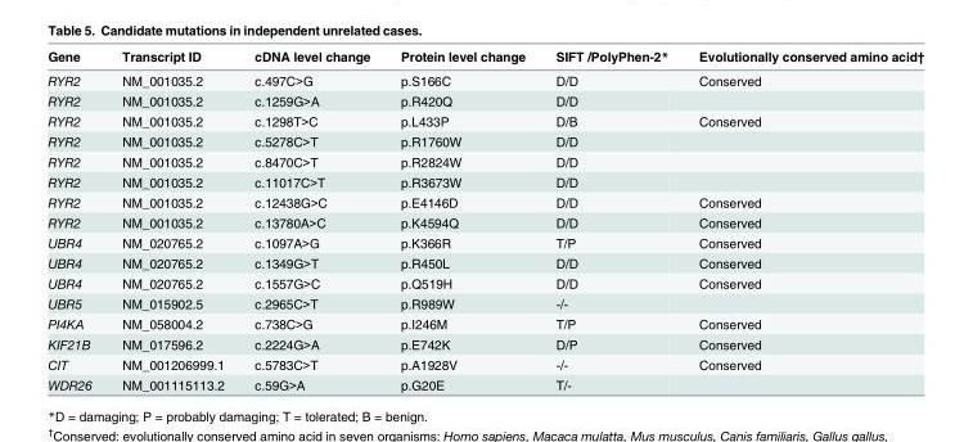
<table><thead><tr><td>Gene</td><td>Transcript ID</td><td>cDNA level change</td><td>Protein level change</td><td>SIFT /PolyPhen-2*</td><td>Evolutionally conserved amino acid†</td></tr></thead><tbody><tr><td>RYR2</td><td>NM_001035.2</td><td>c.497C&gt;G</td><td>p.S166C</td><td>D/D</td><td>Conserved</td></tr><tr><td>RYR2</td><td>NM_001035.2</td><td>c.1259G&gt;A</td><td>p.R420Q</td><td>D/D</td><td></td></tr><tr><td>RYR2</td><td>NM_001035.2</td><td>c.1298T&gt;C</td><td>p.L433P</td><td>D/B</td><td>Conserved</td></tr><tr><td>RYR2</td><td>NM_001035.2</td><td>c.5278C&gt;T</td><td>p.R1760W</td><td>D/D</td><td></td></tr><tr><td>RYR2</td><td>NM_001035.2</td><td>c.8470C&gt;T</td><td>p.R2824W</td><td>D/D</td><td></td></tr><tr><td>RYR2</td><td>NM_001035.2</td><td>c.11017C&gt;T</td><td>p.R3673W</td><td>D/D</td><td></td></tr><tr><td>RYR2</td><td>NM_001035.2</td><td>c.12438G&gt;C</td><td>p.E4146D</td><td>D/D</td><td>Conserved</td></tr><tr><td>RYR2</td><td>NM_001035.2</td><td>c.13780A&gt;C</td><td>p.K4594Q</td><td>D/D</td><td>Conserved</td></tr><tr><td>UBR4</td><td>NM_020765.2</td><td>c.1097A&gt;G</td><td>p.K366R</td><td>T/P</td><td>Conserved</td></tr><tr><td>UBR4</td><td>NM_020765.2</td><td>c.1349G&gt;T</td><td>p.R450L</td><td>D/D</td><td>Conserved</td></tr><tr><td>UBR4</td><td>NM_020765.2</td><td>c.1557G&gt;C</td><td>p.Q519H</td><td>D/D</td><td>Conserved</td></tr><tr><td>UBR5</td><td>NM_015902.5</td><td>c.2965C&gt;T</td><td>p.R989W</td><td>-/-</td><td></td></tr><tr><td>PI4KA</td><td>NM_058004.2</td><td>c.738C&gt;G</td><td>p.I246M</td><td>T/P</td><td>Conserved</td></tr><tr><td>KIF21B</td><td>NM_017596.2</td><td>c.2224G&gt;A</td><td>p.E742K</td><td>D/P</td><td>Conserved</td></tr><tr><td>CIT</td><td>NM_001206999.1</td><td>c.5783C&gt;T</td><td>p.A1928V</td><td>-/-</td><td>Conserved</td></tr><tr><td>WDR26</td><td>NM_001115113.2</td><td>c.59G&gt;A</td><td>p.G20E</td><td>T/-</td><td></td></tr></tbody></table>